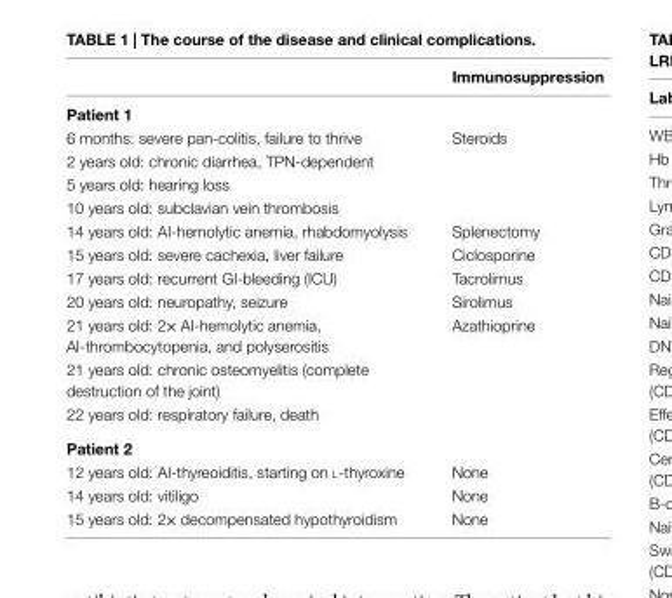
<table><thead><tr><td></td><td>immunosuppression</td></tr></thead><tbody><tr><td colspan="2">Patient 1</td></tr><tr><td>6 months: severe pan-colitis, failure to thrive</td><td>Steroids</td></tr><tr><td colspan="2">2 years old: chronic diarrhea, TPN-dependent</td></tr><tr><td colspan="2">5 years old: hearing loss</td></tr><tr><td colspan="2">10 years old: subclavian vein thrombosis</td></tr><tr><td>14 years old: AI-hemolytic anemia, rhabdomyolysis</td><td>Splenectomy</td></tr><tr><td>15 years old: severe cachexia, liver failure</td><td>Ciclosporine</td></tr><tr><td>17 years old: recurrent GI-bleeding (ICU)</td><td>Tacrolimus</td></tr><tr><td>20 years old: neuropathy, seizure</td><td>Sirolimus</td></tr><tr><td>21 years old: 2× AI-hemolytic anemia, AI-thrombocytopenia, and polyserositis</td><td>Azathioprine</td></tr><tr><td colspan="2">21 years old: chronic osteomyelitis (complete destruction of the joint)</td></tr><tr><td colspan="2">22 years old: respiratory failure, death</td></tr><tr><td colspan="2">Patient 2</td></tr><tr><td>12 years old: AI-thyreoiditis, starting on l-thyroxine</td><td>None</td></tr><tr><td>14 years old: vitiligo</td><td>None</td></tr><tr><td>15 years old: 2× decompensated hypothyroidism</td><td>None</td></tr></tbody></table>